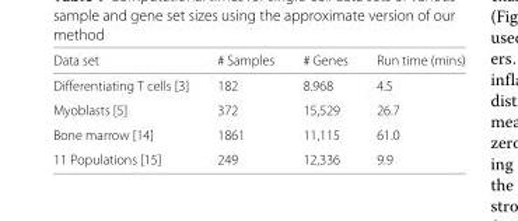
<table><thead><tr><td>Data set</td><td># Samples</td><td># Genes</td><td>Run time (mins)</td></tr></thead><tbody><tr><td>Differentiating T cells [3]</td><td>182</td><td>8.968</td><td>4.5</td></tr><tr><td>Myoblasts [5]</td><td>372</td><td>15,529</td><td>26.7</td></tr><tr><td>Bone marrow [14]</td><td>1861</td><td>11,115</td><td>61.0</td></tr><tr><td>11 Populations [15]</td><td>249</td><td>12,336</td><td>9.9</td></tr></tbody></table>